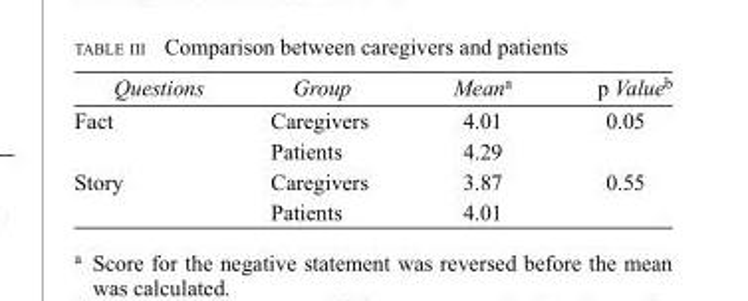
<table><thead><tr><td>Questions</td><td>Group</td><td>Mean<sup>a</sup></td><td>p Value<sup>b</sup></td></tr></thead><tbody><tr><td rowspan="2">Fact</td><td>Caregivers</td><td>4.01</td><td>0.05</td></tr><tr><td>Patients</td><td>4.29</td><td></td></tr><tr><td rowspan="2">Story</td><td>Caregivers</td><td>3.87</td><td>0.55</td></tr><tr><td>Patients</td><td>4.01</td><td></td></tr></tbody></table>